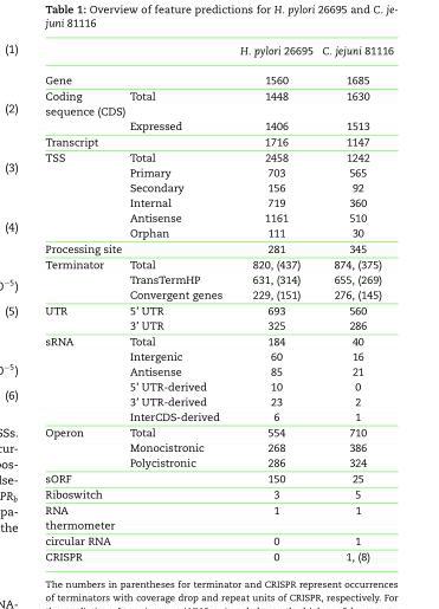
<table><thead><tr><td></td><td></td><td>H. pylori 26695</td><td>C. jejuni 81116</td></tr></thead><tbody><tr><td>Gene</td><td></td><td>1560</td><td>1685</td></tr><tr><td rowspan="2">Coding sequence (CDS)</td><td>Total</td><td>1448</td><td>1630</td></tr><tr><td>Expressed</td><td>1406</td><td>1513</td></tr><tr><td>Transcript</td><td></td><td>1716</td><td>1147</td></tr><tr><td rowspan="6">TSS</td><td>Total</td><td>2458</td><td>1242</td></tr><tr><td>Primary</td><td>703</td><td>565</td></tr><tr><td>Secondary</td><td>156</td><td>92</td></tr><tr><td>Internal</td><td>719</td><td>360</td></tr><tr><td>Antisense</td><td>1161</td><td>510</td></tr><tr><td>Orphan</td><td>111</td><td>30</td></tr><tr><td>Processing site</td><td></td><td>281</td><td>345</td></tr><tr><td rowspan="3">Terminator</td><td>Total</td><td>820, (437)</td><td>874, (375)</td></tr><tr><td>TransTermHP</td><td>631, (314)</td><td>655, (269)</td></tr><tr><td>Convergent genes</td><td>229, (151)</td><td>276, (145)</td></tr><tr><td rowspan="2">UTR</td><td>5’ UTR</td><td>693</td><td>560</td></tr><tr><td>3’ UTR</td><td>325</td><td>286</td></tr><tr><td rowspan="6">sRNA</td><td>Total</td><td>184</td><td>40</td></tr><tr><td>Intergenic</td><td>60</td><td>16</td></tr><tr><td>Antisense</td><td>85</td><td>21</td></tr><tr><td>5’ UTR-derived</td><td>10</td><td>0</td></tr><tr><td>3’ UTR-derived</td><td>23</td><td>2</td></tr><tr><td>InterCDS-derived</td><td>6</td><td>1</td></tr><tr><td rowspan="3">Operon</td><td>Total</td><td>554</td><td>710</td></tr><tr><td>Monocistronic</td><td>268</td><td>386</td></tr><tr><td>Polycistronic</td><td>286</td><td>324</td></tr><tr><td>sORF</td><td></td><td>150</td><td>25</td></tr><tr><td>Riboswitch</td><td></td><td>3</td><td>5</td></tr><tr><td>RNA thermometer</td><td></td><td>1</td><td>1</td></tr><tr><td>circular RNA</td><td></td><td>0</td><td>1</td></tr><tr><td>CRISPR</td><td></td><td>0</td><td>1, (8)</td></tr></tbody></table>